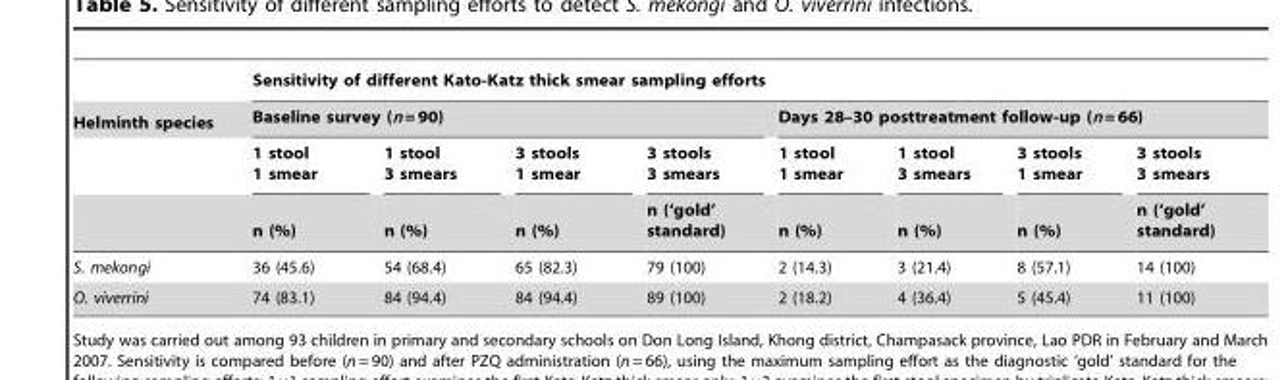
<table><thead><tr><td rowspan="4">Helminth species</td><td colspan="8">Sensitivity of different Kato-Katz thick smear sampling efforts</td></tr><tr><td colspan="4">Baseline survey (n = 90)</td><td colspan="4">Days 28–30 posttreatment follow-up (n = 66)</td></tr><tr><td rowspan="2">1 stool 1 smear n (%)</td><td rowspan="2">1 stool 3 smears n (%)</td><td rowspan="2">3 stools 1 smear n (%)</td><td rowspan="2">3 stools 3 smears n (‘gold’ standard)</td><td rowspan="2">1 stool 1 smear n (%)</td><td rowspan="2">1 stool 3 smears n (%)</td><td rowspan="2">3 stools 1 smear n (%)</td><td rowspan="2">3 stools 3 smears n (‘gold’ standard)</td></tr><tr></tr></thead><tbody><tr><td>S. mekongi</td><td>36 (45.6)</td><td>54 (68.4)</td><td>65 (82.3)</td><td>79 (100)</td><td>2 (14.3)</td><td>3 (21.4)</td><td>8 (57.1)</td><td>14 (100)</td></tr><tr><td>O. viverrini</td><td>74 (83.1)</td><td>84 (94.4)</td><td>84 (94.4)</td><td>89 (100)</td><td>2 (18.2)</td><td>4 (36.4)</td><td>5 (45.4)</td><td>11 (100)</td></tr></tbody></table>